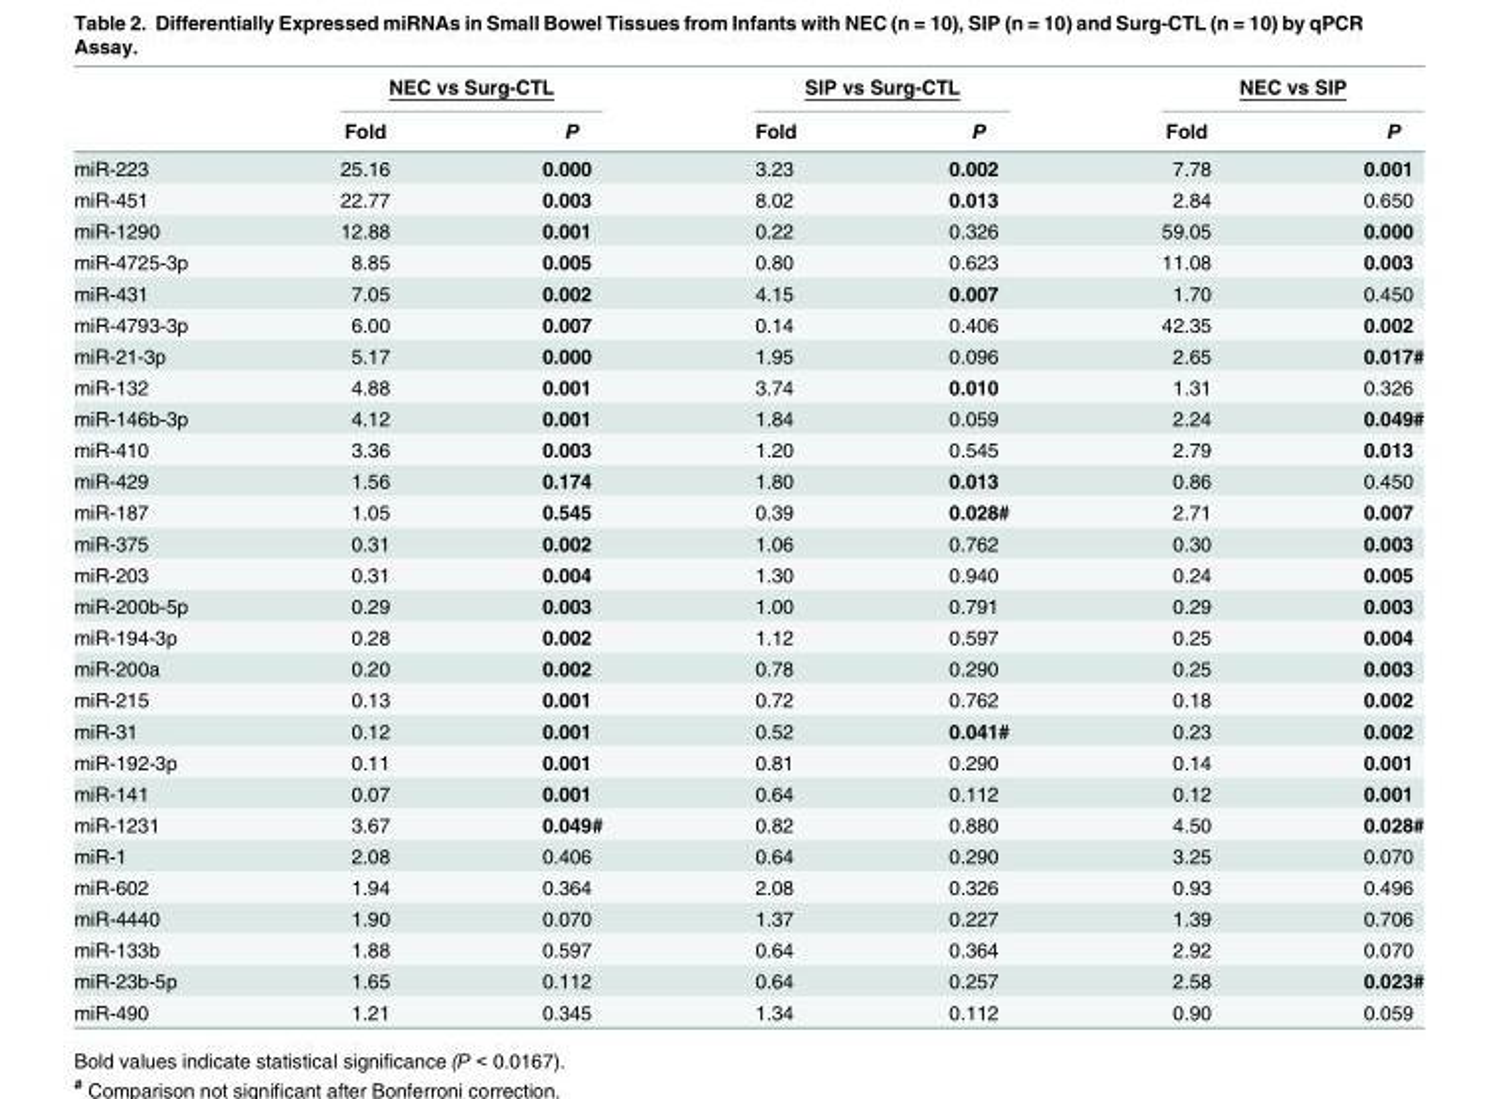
<table><thead><tr><td rowspan="2"></td><td colspan="2">NEC vs Surg-CTL</td><td colspan="2">SIP vs Surg-CTL</td><td colspan="2">NEC vs SIP</td></tr><tr><td>Fold</td><td>P</td><td>Fold</td><td>P</td><td>Fold</td><td>P</td></tr></thead><tbody><tr><td>miR-223</td><td>25.16</td><td>0.000</td><td>3.23</td><td>0.002</td><td>7.78</td><td>0.001</td></tr><tr><td>miR-451</td><td>22.77</td><td>0.003</td><td>8.02</td><td>0.013</td><td>2.84</td><td>0.650</td></tr><tr><td>miR-1290</td><td>12.88</td><td>0.001</td><td>0.22</td><td>0.326</td><td>59.05</td><td>0.000</td></tr><tr><td>miR-4725-3p</td><td>8.85</td><td>0.005</td><td>0.80</td><td>0.623</td><td>11.08</td><td>0.003</td></tr><tr><td>miR-431</td><td>7.05</td><td>0.002</td><td>4.15</td><td>0.007</td><td>1.70</td><td>0.450</td></tr><tr><td>miR-4793-3p</td><td>6.00</td><td>0.007</td><td>0.14</td><td>0.406</td><td>42.35</td><td>0.002</td></tr><tr><td>miR-21-3p</td><td>5.17</td><td>0.000</td><td>1.95</td><td>0.096</td><td>2.65</td><td>0.017#</td></tr><tr><td>miR-132</td><td>4.88</td><td>0.001</td><td>3.74</td><td>0.010</td><td>1.31</td><td>0.326</td></tr><tr><td>miR-146b-3p</td><td>4.12</td><td>0.001</td><td>1.84</td><td>0.059</td><td>2.24</td><td>0.049#</td></tr><tr><td>miR-410</td><td>3.36</td><td>0.003</td><td>1.20</td><td>0.545</td><td>2.79</td><td>0.013</td></tr><tr><td>miR-429</td><td>1.56</td><td>0.174</td><td>1.80</td><td>0.013</td><td>0.86</td><td>0.450</td></tr><tr><td>miR-187</td><td>1.05</td><td>0.545</td><td>0.39</td><td>0.028#</td><td>2.71</td><td>0.007</td></tr><tr><td>miR-375</td><td>0.31</td><td>0.002</td><td>1.06</td><td>0.762</td><td>0.30</td><td>0.003</td></tr><tr><td>miR-203</td><td>0.31</td><td>0.004</td><td>1.30</td><td>0.940</td><td>0.24</td><td>0.005</td></tr><tr><td>miR-200b-5p</td><td>0.29</td><td>0.003</td><td>1.00</td><td>0.791</td><td>0.29</td><td>0.003</td></tr><tr><td>miR-194-3p</td><td>0.28</td><td>0.002</td><td>1.12</td><td>0.597</td><td>0.25</td><td>0.004</td></tr><tr><td>miR-200a</td><td>0.20</td><td>0.002</td><td>0.78</td><td>0.290</td><td>0.25</td><td>0.003</td></tr><tr><td>miR-215</td><td>0.13</td><td>0.001</td><td>0.72</td><td>0.762</td><td>0.18</td><td>0.002</td></tr><tr><td>miR-31</td><td>0.12</td><td>0.001</td><td>0.52</td><td>0.041#</td><td>0.23</td><td>0.002</td></tr><tr><td>miR-192-3p</td><td>0.11</td><td>0.001</td><td>0.81</td><td>0.290</td><td>0.14</td><td>0.001</td></tr><tr><td>miR-141</td><td>0.07</td><td>0.001</td><td>0.64</td><td>0.112</td><td>0.12</td><td>0.001</td></tr><tr><td>miR-1231</td><td>3.67</td><td>0.049#</td><td>0.82</td><td>0.880</td><td>4.50</td><td>0.028#</td></tr><tr><td>miR-1</td><td>2.08</td><td>0.406</td><td>0.64</td><td>0.290</td><td>3.25</td><td>0.070</td></tr><tr><td>miR-602</td><td>1.94</td><td>0.364</td><td>2.08</td><td>0.326</td><td>0.93</td><td>0.496</td></tr><tr><td>miR-4440</td><td>1.90</td><td>0.070</td><td>1.37</td><td>0.227</td><td>1.39</td><td>0.706</td></tr><tr><td>miR-133b</td><td>1.88</td><td>0.597</td><td>0.64</td><td>0.364</td><td>2.92</td><td>0.070</td></tr><tr><td>miR-23b-5p</td><td>1.65</td><td>0.112</td><td>0.64</td><td>0.257</td><td>2.58</td><td>0.023#</td></tr><tr><td>miR-490</td><td>1.21</td><td>0.345</td><td>1.34</td><td>0.112</td><td>0.90</td><td>0.059</td></tr></tbody></table>